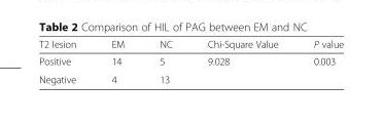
<table><thead><tr><td>T2 lesion</td><td>EM</td><td>NC</td><td>Chi-Square Value</td><td>P value</td></tr></thead><tbody><tr><td>Positive</td><td>14</td><td>5</td><td>9.028</td><td>0.003</td></tr><tr><td>Negative</td><td>4</td><td>13</td><td></td><td></td></tr></tbody></table>